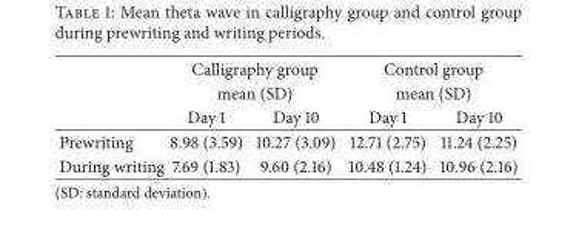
<table><thead><tr><td rowspan="3"></td><td rowspan="2" colspan="2">Calligraphy group mean (SD)</td><td rowspan="2" colspan="2">Control group mean (SD)</td></tr><tr></tr><tr><td>Day 1</td><td>Day 10</td><td>Day 1</td><td>Day 10</td></tr></thead><tbody><tr><td>Prewriting</td><td>8.98 (3.59)</td><td>10.27 (3.09)</td><td>12.71 (2.75)</td><td>11.24 (2.25)</td></tr><tr><td>During writing</td><td>7.69 (1.83)</td><td>9.60 (2.16)</td><td>10.48 (1.24)</td><td>10.96 (2.16)</td></tr></tbody></table>